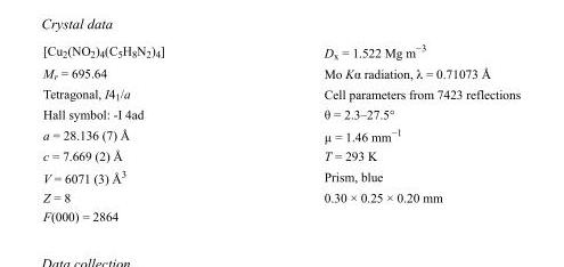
<table><tbody><tr><td>[Cu<sub>2</sub>(NO<sub>2</sub>)<sub>4</sub>(C<sub>5</sub>H<sub>8</sub>N<sub>2</sub>)<sub>4</sub>]</td><td>D<sub>x</sub> = 1.522 Mg m<sup>−3</sup></td></tr><tr><td>M<sub>r</sub> = 695.64</td><td>Mo Kα radiation, λ = 0.71073 Å</td></tr><tr><td>Tetragonal, I4<sub>1</sub>/a</td><td>Cell parameters from 7423 reflections</td></tr><tr><td>Hall symbol: -I 4ad</td><td>θ = 2.3–27.5°</td></tr><tr><td>a = 28.136 (7) Å</td><td>µ = 1.46 mm<sup>−1</sup></td></tr><tr><td>c = 7.669 (2) Å</td><td>T = 293 K</td></tr><tr><td>V = 6071 (3) Å<sup>3</sup></td><td>Prism, blue</td></tr><tr><td>Z = 8</td><td>0.30 × 0.25 × 0.20 mm</td></tr><tr><td>F(000) = 2864</td><td></td></tr></tbody></table>